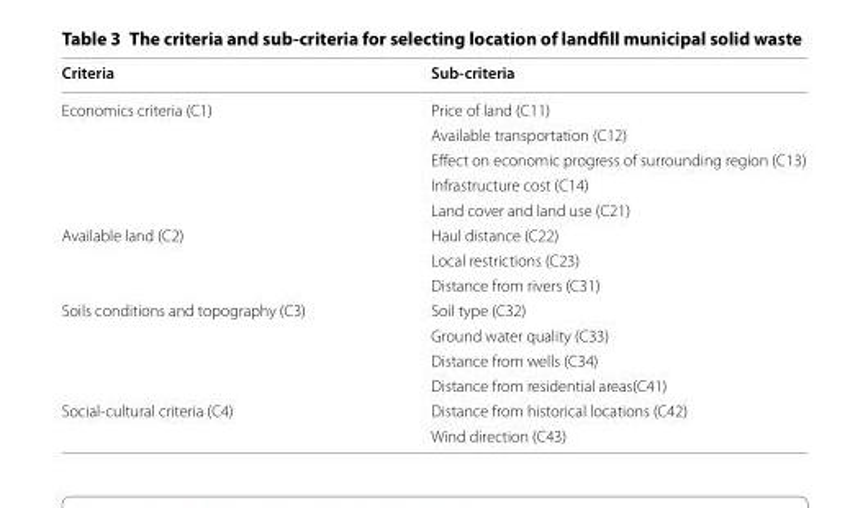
<table><thead><tr><td>Criteria</td><td>Sub-criteria</td></tr></thead><tbody><tr><td rowspan="5">Economics criteria (C1)</td><td>Price of land (C11)</td></tr><tr><td>Available transportation (C12)</td></tr><tr><td>Effect on economic progress of surrounding region (C13)</td></tr><tr><td>Infrastructure cost (C14)</td></tr><tr><td>Land cover and land use (C21)</td></tr><tr><td rowspan="3">Available land (C2)</td><td>Haul distance (C22)</td></tr><tr><td>Local restrictions (C23)</td></tr><tr><td>Distance from rivers (C31)</td></tr><tr><td rowspan="4">Soils conditions and topography (C3)</td><td>Soil type (C32)</td></tr><tr><td>Ground water quality (C33)</td></tr><tr><td>Distance from wells (C34)</td></tr><tr><td>Distance from residential areas(C41)</td></tr><tr><td rowspan="2">Social-cultural criteria (C4)</td><td>Distance from historical locations (C42)</td></tr><tr><td>Wind direction (C43)</td></tr></tbody></table>